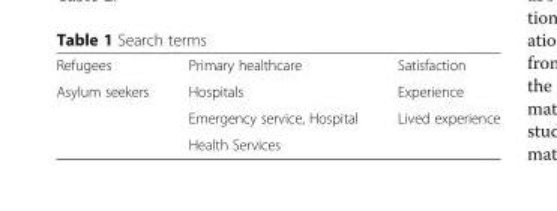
<table><tbody><tr><td>Refugees</td><td>Primary healthcare</td><td>Satisfaction</td></tr><tr><td rowspan="3">Asylum seekers</td><td>Hospitals</td><td>Experience</td></tr><tr><td>Emergency service, Hospital</td><td rowspan="2">Lived experience</td></tr><tr><td>Health Services</td></tr></tbody></table>